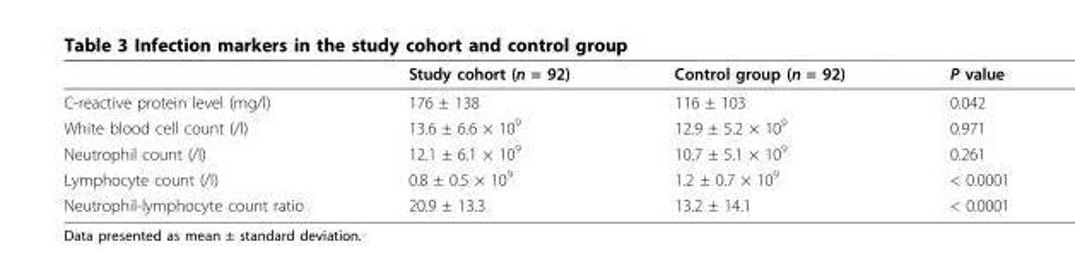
<table><thead><tr><td></td><td>Study cohort (n = 92)</td><td>Control group (n = 92)</td><td>P value</td></tr></thead><tbody><tr><td>C-reactive protein level (mg/l)</td><td>176 ± 138</td><td>116 ± 103</td><td>0.042</td></tr><tr><td>White blood cell count (/l)</td><td>13.6 ± 6.6 × 10<sup>9</sup></td><td>12.9 ± 5.2 × 10<sup>9</sup></td><td>0.971</td></tr><tr><td>Neutrophil count (/l)</td><td>12.1 ± 6.1 × 10<sup>9</sup></td><td>10.7 ± 5.1 × 10<sup>9</sup></td><td>0.261</td></tr><tr><td>Lymphocyte count (/l)</td><td>0.8 ± 0.5 × 10<sup>9</sup></td><td>1.2 ± 0.7 × 10<sup>9</sup></td><td>&lt; 0.0001</td></tr><tr><td>Neutrophil-lymphocyte count ratio</td><td>20.9 ± 13.3</td><td>13.2 ± 14.1</td><td>&lt; 0.0001</td></tr></tbody></table>